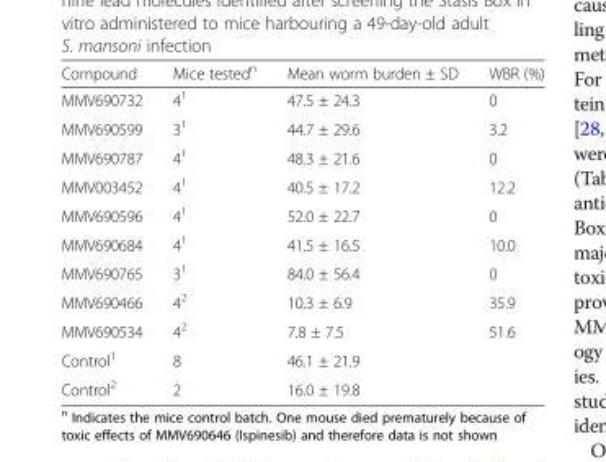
<table><thead><tr><td>Compound</td><td>Mice tested<sup>n</sup></td><td>Mean worm burden ± SD</td><td>WBR (%)</td></tr></thead><tbody><tr><td>MMV690732</td><td>4<sup>1</sup></td><td>47.5 ± 24.3</td><td>0</td></tr><tr><td>MMV690599</td><td>3<sup>1</sup></td><td>44.7 ± 29.6</td><td>3.2</td></tr><tr><td>MMV690787</td><td>4<sup>1</sup></td><td>48.3 ± 21.6</td><td>0</td></tr><tr><td>MMV003452</td><td>4<sup>1</sup></td><td>40.5 ± 17.2</td><td>12.2</td></tr><tr><td>MMV690596</td><td>4<sup>1</sup></td><td>52.0 ± 22.7</td><td>0</td></tr><tr><td>MMV690684</td><td>4<sup>1</sup></td><td>41.5 ± 16.5</td><td>10.0</td></tr><tr><td>MMV690765</td><td>3<sup>1</sup></td><td>84.0 ± 56.4</td><td>0</td></tr><tr><td>MMV690466</td><td>4<sup>2</sup></td><td>10.3 ± 6.9</td><td>35.9</td></tr><tr><td>MMV690534</td><td>4<sup>2</sup></td><td>7.8 ± 7.5</td><td>51.6</td></tr><tr><td>Control<sup>1</sup></td><td>8</td><td>46.1 ± 21.9</td><td></td></tr><tr><td>Control<sup>2</sup></td><td>2</td><td>16.0 ± 19.8</td><td></td></tr></tbody></table>